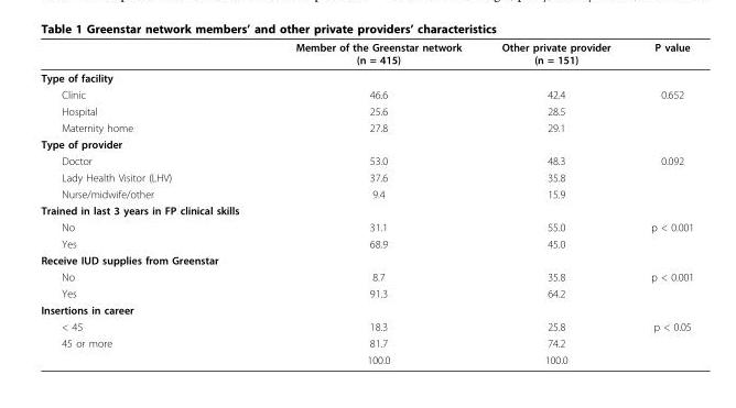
<table><thead><tr><td></td><td>Member of the Greenstar network (n = 415)</td><td>Other private provider (n = 151)</td><td>P value</td></tr></thead><tbody><tr><td colspan="4">Type of facility</td></tr><tr><td>Clinic</td><td>46.6</td><td>42.4</td><td>0.652</td></tr><tr><td>Hospital</td><td>25.6</td><td>28.5</td><td></td></tr><tr><td>Maternity home</td><td>27.8</td><td>29.1</td><td></td></tr><tr><td colspan="4">Type of provider</td></tr><tr><td>Doctor</td><td>53.0</td><td>48.3</td><td>0.092</td></tr><tr><td>Lady Health Visitor (LHV)</td><td>37.6</td><td>35.8</td><td></td></tr><tr><td>Nurse/midwife/other</td><td>9.4</td><td>15.9</td><td></td></tr><tr><td colspan="4">Trained in last 3 years in FP clinical skills</td></tr><tr><td>No</td><td>31.1</td><td>55.0</td><td>p &lt; 0.001</td></tr><tr><td>Yes</td><td>68.9</td><td>45.0</td><td></td></tr><tr><td colspan="4">Receive IUD supplies from Greenstar</td></tr><tr><td>No</td><td>8.7</td><td>35.8</td><td>p &lt; 0.001</td></tr><tr><td>Yes</td><td>91.3</td><td>64.2</td><td></td></tr><tr><td colspan="4">Insertions in career</td></tr><tr><td>&lt; 45</td><td>18.3</td><td>25.8</td><td>p &lt; 0.05</td></tr><tr><td rowspan="2">45 or more</td><td>81.7</td><td>74.2</td><td></td></tr><tr><td>100.0</td><td>100.0</td><td></td></tr></tbody></table>